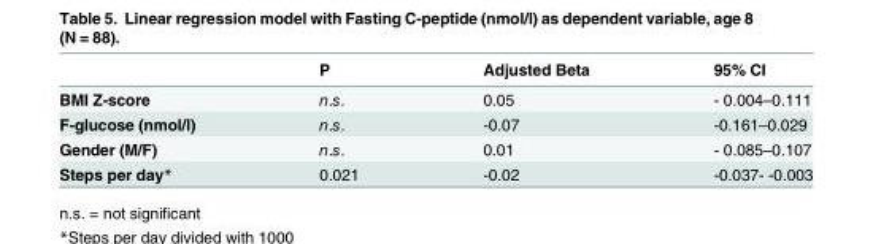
<table><thead><tr><td></td><td>P</td><td>Adjusted Beta</td><td>95% CI</td></tr></thead><tbody><tr><td>BMI Z-score</td><td>n.s.</td><td>0.05</td><td>- 0.004–0.111</td></tr><tr><td>F-glucose (nmol/l)</td><td>n.s.</td><td>-0.07</td><td>-0.161–0.029</td></tr><tr><td>Gender (M/F)</td><td>n.s.</td><td>0.01</td><td>- 0.085–0.107</td></tr><tr><td>Steps per day*</td><td>0.021</td><td>-0.02</td><td>-0.037- -0.003</td></tr></tbody></table>